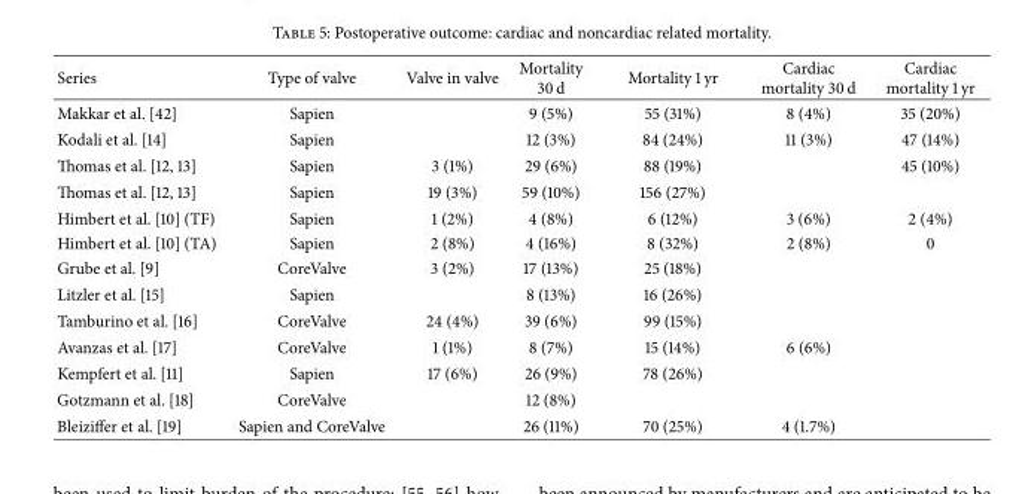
<table><thead><tr><td>Series</td><td>Type of valve</td><td>Valve in valve</td><td>Mortality 30 d</td><td>Mortality 1 yr</td><td>Cardiac mortality 30 d</td><td>Cardiac mortality 1 yr</td></tr></thead><tbody><tr><td>Makkar et al. [42]</td><td>Sapien</td><td></td><td>9 (5%)</td><td>55 (31%)</td><td>8 (4%)</td><td>35 (20%)</td></tr><tr><td>Kodali et al. [14]</td><td>Sapien</td><td></td><td>12 (3%)</td><td>84 (24%)</td><td>11 (3%)</td><td>47 (14%)</td></tr><tr><td>Thomas et al. [12, 13]</td><td>Sapien</td><td>3 (1%)</td><td>29 (6%)</td><td>88 (19%)</td><td></td><td>45 (10%)</td></tr><tr><td>Thomas et al. [12, 13]</td><td>Sapien</td><td>19 (3%)</td><td>59 (10%)</td><td>156 (27%)</td><td></td><td></td></tr><tr><td>Himbert et al. [10] (TF)</td><td>Sapien</td><td>1 (2%)</td><td>4 (8%)</td><td>6 (12%)</td><td>3 (6%)</td><td>2 (4%)</td></tr><tr><td>Himbert et al. [10] (TA)</td><td>Sapien</td><td>2 (8%)</td><td>4 (16%)</td><td>8 (32%)</td><td>2 (8%)</td><td>0</td></tr><tr><td>Grube et al. [9]</td><td>CoreValve</td><td>3 (2%)</td><td>17 (13%)</td><td>25 (18%)</td><td></td><td></td></tr><tr><td>Litzler et al. [15]</td><td>Sapien</td><td></td><td>8 (13%)</td><td>16 (26%)</td><td></td><td></td></tr><tr><td>Tamburino et al. [16]</td><td>CoreValve</td><td>24 (4%)</td><td>39 (6%)</td><td>99 (15%)</td><td></td><td></td></tr><tr><td>Avanzas et al. [17]</td><td>CoreValve</td><td>1 (1%)</td><td>8 (7%)</td><td>15 (14%)</td><td>6 (6%)</td><td></td></tr><tr><td>Kempfert et al. [11]</td><td>Sapien</td><td>17 (6%)</td><td>26 (9%)</td><td>78 (26%)</td><td></td><td></td></tr><tr><td>Gotzmann et al. [18]</td><td>CoreValve</td><td></td><td>12 (8%)</td><td></td><td></td><td></td></tr><tr><td>Bleiziffer et al. [19]</td><td>Sapien and CoreValve</td><td></td><td>26 (11%)</td><td>70 (25%)</td><td>4 (1.7%)</td><td></td></tr></tbody></table>